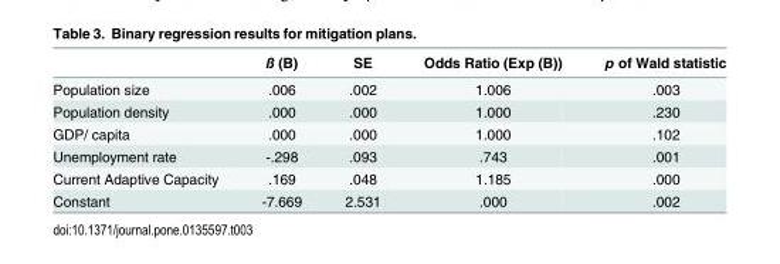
<table><thead><tr><td></td><td>ß (B)</td><td>SE</td><td>Odds Ratio (Exp (B))</td><td>p of Wald statistic</td></tr></thead><tbody><tr><td>Population size</td><td>.006</td><td>.002</td><td>1.006</td><td>.003</td></tr><tr><td>Population density</td><td>.000</td><td>.000</td><td>1.000</td><td>.230</td></tr><tr><td>GDP/ capita</td><td>.000</td><td>.000</td><td>1.000</td><td>.102</td></tr><tr><td>Unemployment rate</td><td>-.298</td><td>.093</td><td>.743</td><td>.001</td></tr><tr><td>Current Adaptive Capacity</td><td>.169</td><td>.048</td><td>1.185</td><td>.000</td></tr><tr><td>Constant</td><td>-7.669</td><td>2.531</td><td>.000</td><td>.002</td></tr></tbody></table>